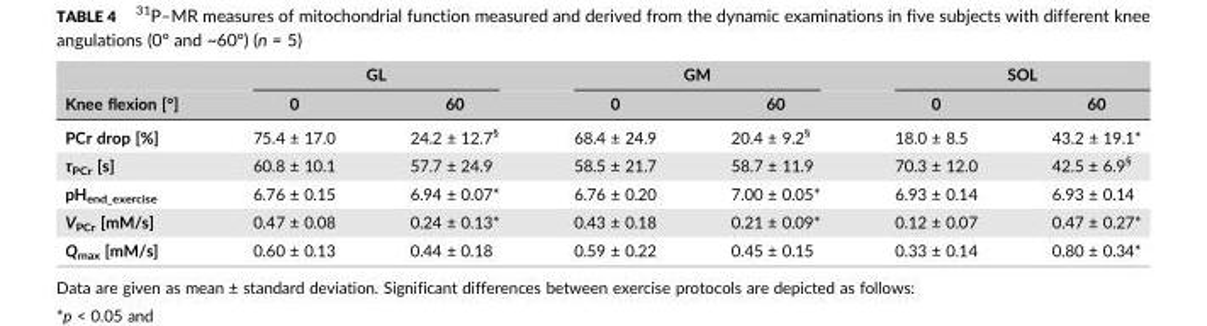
<table><thead><tr><td rowspan="2">Knee flexion [°]</td><td colspan="2">GL</td><td colspan="2">GM</td><td colspan="2">SOL</td></tr><tr><td>0</td><td>60</td><td>0</td><td>60</td><td>0</td><td>60</td></tr></thead><tbody><tr><td>PCr drop [%]</td><td>75.4 ± 17.0</td><td>24.2 ± 12.7§</td><td>68.4 ± 24.9</td><td>20.4 ± 9.2§</td><td>18.0 ± 8.5</td><td>43.2 ± 19.1*</td></tr><tr><td>τ<sub>PCr</sub> [s]</td><td>60.8 ± 10.1</td><td>57.7 ± 24.9</td><td>58.5 ± 21.7</td><td>58.7 ± 11.9</td><td>70.3 ± 12.0</td><td>42.5 ± 6.9§</td></tr><tr><td>pH<sub>end_exercise</sub></td><td>6.76 ± 0.15</td><td>6.94 ± 0.07*</td><td>6.76 ± 0.20</td><td>7.00 ± 0.05*</td><td>6.93 ± 0.14</td><td>6.93 ± 0.14</td></tr><tr><td>V<sub>PCr</sub> [mM/s]</td><td>0.47 ± 0.08</td><td>0.24 ± 0.13*</td><td>0.43 ± 0.18</td><td>0.21 ± 0.09*</td><td>0.12 ± 0.07</td><td>0.47 ± 0.27*</td></tr><tr><td>Q<sub>max</sub> [mM/s]</td><td>0.60 ± 0.13</td><td>0.44 ± 0.18</td><td>0.59 ± 0.22</td><td>0.45 ± 0.15</td><td>0.33 ± 0.14</td><td>0.80 ± 0.34*</td></tr></tbody></table>